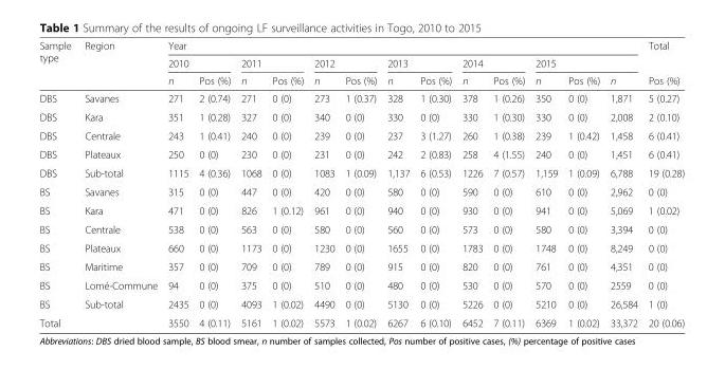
<table><thead><tr><td rowspan="3">Sample type</td><td rowspan="3">Region</td><td colspan="13">Year</td><td rowspan="3">Total Pos (%)</td></tr><tr><td colspan="2">2010</td><td colspan="2">2011</td><td colspan="2">2012</td><td colspan="2">2013</td><td colspan="2">2014</td><td colspan="3">2015</td></tr><tr><td>n</td><td>Pos (%)</td><td>n</td><td>Pos (%)</td><td>n</td><td>Pos (%)</td><td>n</td><td>Pos (%)</td><td>n</td><td>Pos (%)</td><td>n</td><td>Pos (%)</td><td>n</td></tr></thead><tbody><tr><td>DBS</td><td>Savanes</td><td>271</td><td>2 (0.74)</td><td>271</td><td>0 (0)</td><td>273</td><td>1 (0.37)</td><td>328</td><td>1 (0.30)</td><td>378</td><td>1 (0.26)</td><td>350</td><td>0 (0)</td><td>1,871</td><td>5 (0.27)</td></tr><tr><td>DBS</td><td>Kara</td><td>351</td><td>1 (0.28)</td><td>327</td><td>0 (0)</td><td>340</td><td>0 (0)</td><td>330</td><td>0 (0)</td><td>330</td><td>1 (0.30)</td><td>330</td><td>0 (0)</td><td>2,008</td><td>2 (0.10)</td></tr><tr><td>DBS</td><td>Centrale</td><td>243</td><td>1 (0.41)</td><td>240</td><td>0 (0)</td><td>239</td><td>0 (0)</td><td>237</td><td>3 (1.27)</td><td>260</td><td>1 (0.38)</td><td>239</td><td>1 (0.42)</td><td>1,458</td><td>6 (0.41)</td></tr><tr><td>DBS</td><td>Plateaux</td><td>250</td><td>0 (0)</td><td>230</td><td>0 (0)</td><td>231</td><td>0 (0)</td><td>242</td><td>2 (0.83)</td><td>258</td><td>4 (1.55)</td><td>240</td><td>0 (0)</td><td>1,451</td><td>6 (0.41)</td></tr><tr><td>DBS</td><td>Sub-total</td><td>1115</td><td>4 (0.36)</td><td>1068</td><td>0 (0)</td><td>1083</td><td>1 (0.09)</td><td>1,137</td><td>6 (0.53)</td><td>1226</td><td>7 (0.57)</td><td>1,159</td><td>1 (0.09)</td><td>6,788</td><td>19 (0.28)</td></tr><tr><td>BS</td><td>Savanes</td><td>315</td><td>0 (0)</td><td>447</td><td>0 (0)</td><td>420</td><td>0 (0)</td><td>580</td><td>0 (0)</td><td>590</td><td>0 (0)</td><td>610</td><td>0 (0)</td><td>2,962</td><td>0 (0)</td></tr><tr><td>BS</td><td>Kara</td><td>471</td><td>0 (0)</td><td>826</td><td>1 (0.12)</td><td>961</td><td>0 (0)</td><td>940</td><td>0 (0)</td><td>930</td><td>0 (0)</td><td>941</td><td>0 (0)</td><td>5,069</td><td>1 (0.02)</td></tr><tr><td>BS</td><td>Centrale</td><td>538</td><td>0 (0)</td><td>563</td><td>0 (0)</td><td>580</td><td>0 (0)</td><td>560</td><td>0 (0)</td><td>573</td><td>0 (0)</td><td>580</td><td>0 (0)</td><td>3,394</td><td>0 (0)</td></tr><tr><td>BS</td><td>Plateaux</td><td>660</td><td>0 (0)</td><td>1173</td><td>0 (0)</td><td>1230</td><td>0 (0)</td><td>1655</td><td>0 (0)</td><td>1783</td><td>0 (0)</td><td>1748</td><td>0 (0)</td><td>8,249</td><td>0 (0)</td></tr><tr><td>BS</td><td>Maritime</td><td>357</td><td>0 (0)</td><td>709</td><td>0 (0)</td><td>789</td><td>0 (0)</td><td>915</td><td>0 (0)</td><td>820</td><td>0 (0)</td><td>761</td><td>0 (0)</td><td>4,351</td><td>0 (0)</td></tr><tr><td>BS</td><td>Lomé-Commune</td><td>94</td><td>0 (0)</td><td>375</td><td>0 (0)</td><td>510</td><td>0 (0)</td><td>480</td><td>0 (0)</td><td>530</td><td>0 (0)</td><td>570</td><td>0 (0)</td><td>2559</td><td>0 (0)</td></tr><tr><td>BS</td><td>Sub-total</td><td>2435</td><td>0 (0)</td><td>4093</td><td>1 (0.02)</td><td>4490</td><td>0 (0)</td><td>5130</td><td>0 (0)</td><td>5226</td><td>0 (0)</td><td>5210</td><td>0 (0)</td><td>26,584</td><td>1 (0)</td></tr><tr><td colspan="2">Total</td><td>3550</td><td>4 (0.11)</td><td>5161</td><td>1 (0.02)</td><td>5573</td><td>1 (0.02)</td><td>6267</td><td>6 (0.10)</td><td>6452</td><td>7 (0.11)</td><td>6369</td><td>1 (0.02)</td><td>33,372</td><td>20 (0.06)</td></tr></tbody></table>